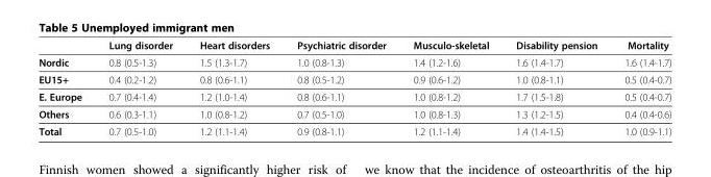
<table><thead><tr><td></td><td>Lung disorder</td><td>Heart disorders</td><td>Psychiatric disorder</td><td>Musculo-skeletal</td><td>Disability pension</td><td>Mortality</td></tr></thead><tbody><tr><td>Nordic</td><td>0.8 (0.5-1.3)</td><td>1.5 (1.3-1.7)</td><td>1.0 (0.8-1.3)</td><td>1.4 (1.2-1.6)</td><td>1.6 (1.4-1.7)</td><td>1.6 (1.4-1.7)</td></tr><tr><td>EU15+</td><td>0.4 (0.2-1.2)</td><td>0.8 (0.6-1.1)</td><td>0.8 (0.5-1.2)</td><td>0.9 (0.6-1.2)</td><td>1.0 (0.8-1.1)</td><td>0.5 (0.4-0.7)</td></tr><tr><td>E. Europe</td><td>0.7 (0.4-1.4)</td><td>1.2 (1.0-1.4)</td><td>0.8 (0.6-1.1)</td><td>1.0 (0.8-1.2)</td><td>1.7 (1.5-1.8)</td><td>0.5 (0.4-0.7)</td></tr><tr><td>Others</td><td>0.6 (0.3-1.1)</td><td>1.0 (0.8-1.2)</td><td>0.7 (0.5-1.0)</td><td>1.0 (0.8-1.3)</td><td>1.3 (1.2-1.5)</td><td>0.4 (0.4-0.6)</td></tr><tr><td>Total</td><td>0.7 (0.5-1.0)</td><td>1.2 (1.1-1.4)</td><td>0.9 (0.8-1.1)</td><td>1.2 (1.1-1.4)</td><td>1.4 (1.4-1.5)</td><td>1.0 (0.9-1.1)</td></tr></tbody></table>